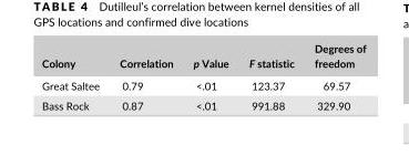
<table><thead><tr><td>Colony</td><td>Correlation</td><td>p Value</td><td>F statistic</td><td>Degrees of freedom</td></tr></thead><tbody><tr><td>Great Saltee</td><td>0.79</td><td>&lt;.01</td><td>123.37</td><td>69.57</td></tr><tr><td>Bass Rock</td><td>0.87</td><td>&lt;.01</td><td>991.88</td><td>329.90</td></tr></tbody></table>